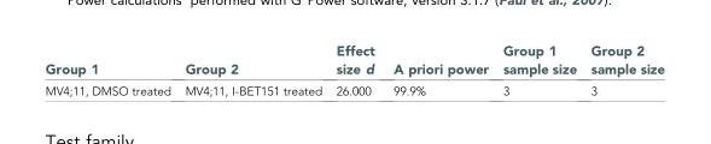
<table><thead><tr><td>Group 1</td><td>Group 2</td><td>Effect size d</td><td>A priori power</td><td>Group 1 sample size</td><td>Group 2 sample size</td></tr></thead><tbody><tr><td>MV4;11, DMSO treated</td><td>MV4;11, I-BET151 treated</td><td>26.000</td><td>99.9%</td><td>3</td><td>3</td></tr></tbody></table>